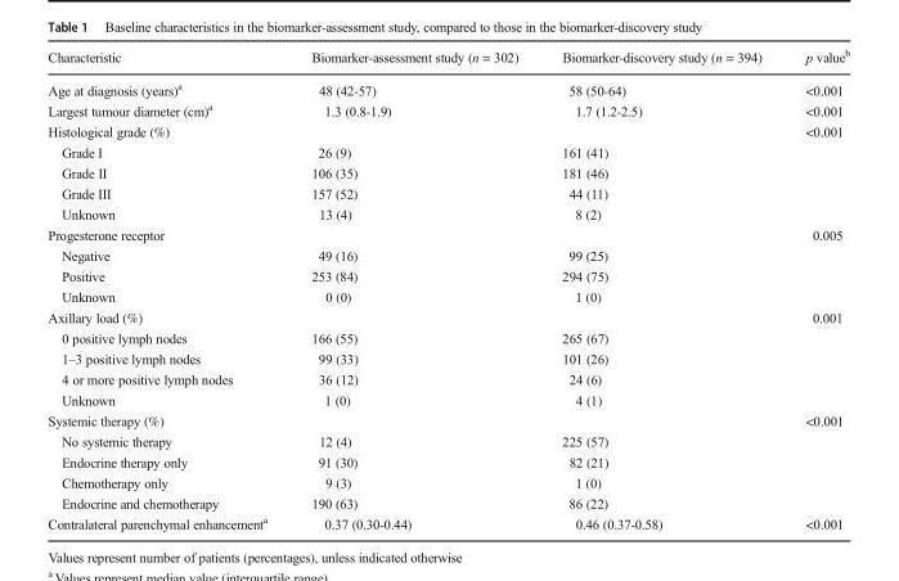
<table><thead><tr><td>Characteristic</td><td>Biomarker-assessment study (n = 302)</td><td>Biomarker-discovery study (n = 394)</td><td>p value<sup>b</sup></td></tr></thead><tbody><tr><td>Age at diagnosis (years)<sup>a</sup></td><td>48 (42-57)</td><td>58 (50-64)</td><td>&lt;0.001</td></tr><tr><td>Largest tumour diameter (cm)<sup>a</sup></td><td>1.3 (0.8-1.9)</td><td>1.7 (1.2-2.5)</td><td>&lt;0.001</td></tr><tr><td>Histological grade (%)</td><td></td><td></td><td>&lt;0.001</td></tr><tr><td>Grade I</td><td>26 (9)</td><td>161 (41)</td><td></td></tr><tr><td>Grade II</td><td>106 (35)</td><td>181 (46)</td><td></td></tr><tr><td>Grade III</td><td>157 (52)</td><td>44 (11)</td><td></td></tr><tr><td>Unknown</td><td>13 (4)</td><td>8 (2)</td><td></td></tr><tr><td>Progesterone receptor</td><td></td><td></td><td>0.005</td></tr><tr><td>Negative</td><td>49 (16)</td><td>99 (25)</td><td></td></tr><tr><td>Positive</td><td>253 (84)</td><td>294 (75)</td><td></td></tr><tr><td>Unknown</td><td>0 (0)</td><td>1 (0)</td><td></td></tr><tr><td>Axillary load (%)</td><td></td><td></td><td>0.001</td></tr><tr><td>0 positive lymph nodes</td><td>166 (55)</td><td>265 (67)</td><td></td></tr><tr><td>1–3 positive lymph nodes</td><td>99 (33)</td><td>101 (26)</td><td></td></tr><tr><td>4 or more positive lymph nodes</td><td>36 (12)</td><td>24 (6)</td><td></td></tr><tr><td>Unknown</td><td>1 (0)</td><td>4 (1)</td><td></td></tr><tr><td>Systemic therapy (%)</td><td></td><td></td><td>&lt;0.001</td></tr><tr><td>No systemic therapy</td><td>12 (4)</td><td>225 (57)</td><td></td></tr><tr><td>Endocrine therapy only</td><td>91 (30)</td><td>82 (21)</td><td></td></tr><tr><td>Chemotherapy only</td><td>9 (3)</td><td>1 (0)</td><td></td></tr><tr><td>Endocrine and chemotherapy</td><td>190 (63)</td><td>86 (22)</td><td></td></tr><tr><td>Contralateral parenchymal enhancement<sup>a</sup></td><td>0.37 (0.30-0.44)</td><td>0.46 (0.37-0.58)</td><td>&lt;0.001</td></tr></tbody></table>